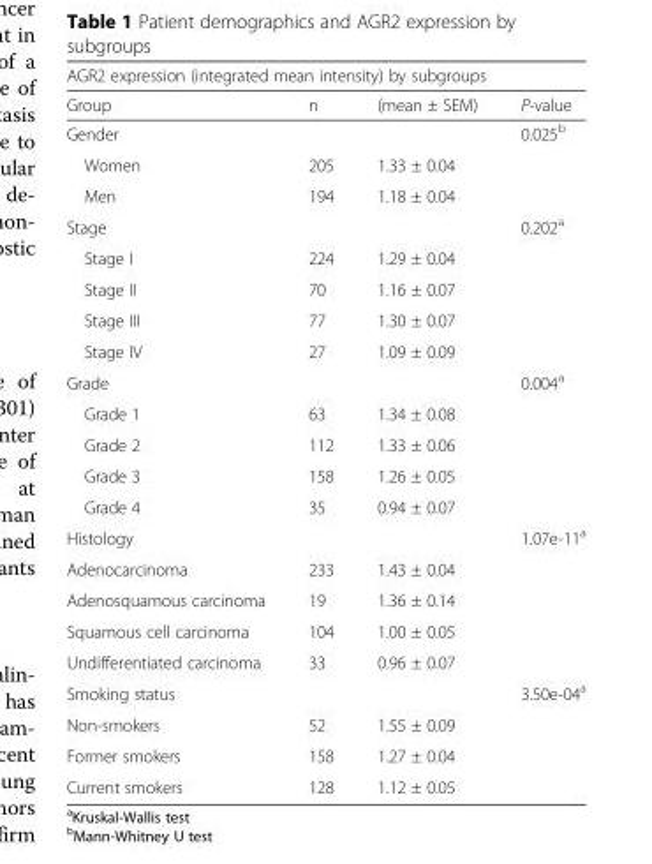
<table><thead><tr><td colspan="4">AGR2 expression (integrated mean intensity) by subgroups</td></tr><tr><td>Group</td><td>n</td><td>(mean ± SEM)</td><td>P-value</td></tr></thead><tbody><tr><td>Gender</td><td></td><td></td><td>0.025<sup>b</sup></td></tr><tr><td>Women</td><td>205</td><td>1.33 ± 0.04</td><td></td></tr><tr><td>Men</td><td>194</td><td>1.18 ± 0.04</td><td></td></tr><tr><td>Stage</td><td></td><td></td><td>0.202<sup>a</sup></td></tr><tr><td>Stage I</td><td>224</td><td>1.29 ± 0.04</td><td></td></tr><tr><td>Stage II</td><td>70</td><td>1.16 ± 0.07</td><td></td></tr><tr><td>Stage III</td><td>77</td><td>1.30 ± 0.07</td><td></td></tr><tr><td>Stage IV</td><td>27</td><td>1.09 ± 0.09</td><td></td></tr><tr><td>Grade</td><td></td><td></td><td>0.004<sup>a</sup></td></tr><tr><td>Grade 1</td><td>63</td><td>1.34 ± 0.08</td><td></td></tr><tr><td>Grade 2</td><td>112</td><td>1.33 ± 0.06</td><td></td></tr><tr><td>Grade 3</td><td>158</td><td>1.26 ± 0.05</td><td></td></tr><tr><td>Grade 4</td><td>35</td><td>0.94 ± 0.07</td><td></td></tr><tr><td>Histology</td><td></td><td></td><td>1.07e-11<sup>a</sup></td></tr><tr><td>Adenocarcinoma</td><td>233</td><td>1.43 ± 0.04</td><td></td></tr><tr><td>Adenosquamous carcinoma</td><td>19</td><td>1.36 ± 0.14</td><td></td></tr><tr><td>Squamous cell carcinoma</td><td>104</td><td>1.00 ± 0.05</td><td></td></tr><tr><td>Undifferentiated carcinoma</td><td>33</td><td>0.96 ± 0.07</td><td></td></tr><tr><td>Smoking status</td><td></td><td></td><td>3.50e-04<sup>a</sup></td></tr><tr><td>Non-smokers</td><td>52</td><td>1.55 ± 0.09</td><td></td></tr><tr><td>Former smokers</td><td>158</td><td>1.27 ± 0.04</td><td></td></tr><tr><td>Current smokers</td><td>128</td><td>1.12 ± 0.05</td><td></td></tr></tbody></table>